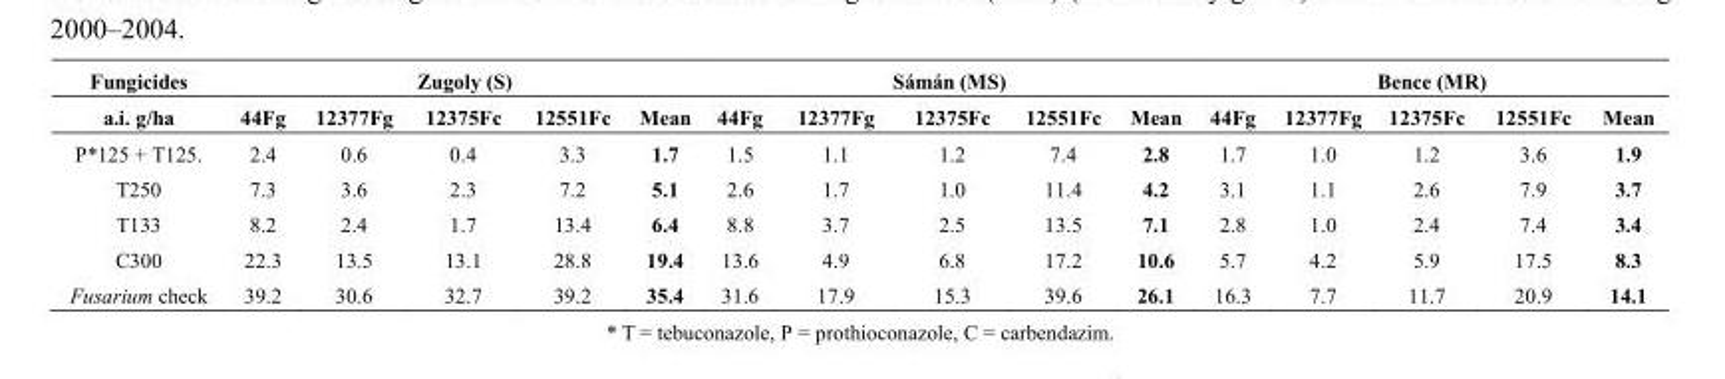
<table><thead><tr><td rowspan="2">Fungicides a.i. g/ha</td><td colspan="5">Zugoly (S)</td><td colspan="5">Sámán (MS)</td><td colspan="5">Bence (MR)</td></tr><tr><td>44Fg</td><td>12377Fg</td><td>12375Fc</td><td>12551Fc</td><td>Mean</td><td>44Fg</td><td>12377Fg</td><td>12375Fc</td><td>12551Fc</td><td>Mean</td><td>44Fg</td><td>12377Fg</td><td>12375Fc</td><td>12551Fc</td><td>Mean</td></tr></thead><tbody><tr><td>P*125 + T125.</td><td>2.4</td><td>0.6</td><td>0.4</td><td>3.3</td><td>1.7</td><td>1.5</td><td>1.1</td><td>1.2</td><td>7.4</td><td>2.8</td><td>1.7</td><td>1.0</td><td>1.2</td><td>3.6</td><td>1.9</td></tr><tr><td>T250</td><td>7.3</td><td>3.6</td><td>2.3</td><td>7.2</td><td>5.1</td><td>2.6</td><td>1.7</td><td>1.0</td><td>11.4</td><td>4.2</td><td>3.1</td><td>1.1</td><td>2.6</td><td>7.9</td><td>3.7</td></tr><tr><td>T133</td><td>8.2</td><td>2.4</td><td>1.7</td><td>13.4</td><td>6.4</td><td>8.8</td><td>3.7</td><td>2.5</td><td>13.5</td><td>7.1</td><td>2.8</td><td>1.0</td><td>2.4</td><td>7.4</td><td>3.4</td></tr><tr><td>C300</td><td>22.3</td><td>13.5</td><td>13.1</td><td>28.8</td><td>19.4</td><td>13.6</td><td>4.9</td><td>6.8</td><td>17.2</td><td>10.6</td><td>5.7</td><td>4.2</td><td>5.9</td><td>17.5</td><td>8.3</td></tr><tr><td>Fusarium check</td><td>39.2</td><td>30.6</td><td>32.7</td><td>39.2</td><td>35.4</td><td>31.6</td><td>17.9</td><td>15.3</td><td>39.6</td><td>26.1</td><td>16.3</td><td>7.7</td><td>11.7</td><td>20.9</td><td>14.1</td></tr></tbody></table>